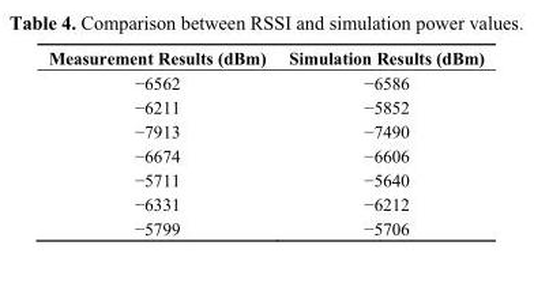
<table><thead><tr><td>Measurement Results (dBm)</td><td>Simulation Results (dBm)</td></tr></thead><tbody><tr><td>−6562</td><td>−6586</td></tr><tr><td>−6211</td><td>−5852</td></tr><tr><td>−7913</td><td>−7490</td></tr><tr><td>−6674</td><td>−6606</td></tr><tr><td>−5711</td><td>−5640</td></tr><tr><td>−6331</td><td>−6212</td></tr><tr><td>−5799</td><td>−5706</td></tr></tbody></table>